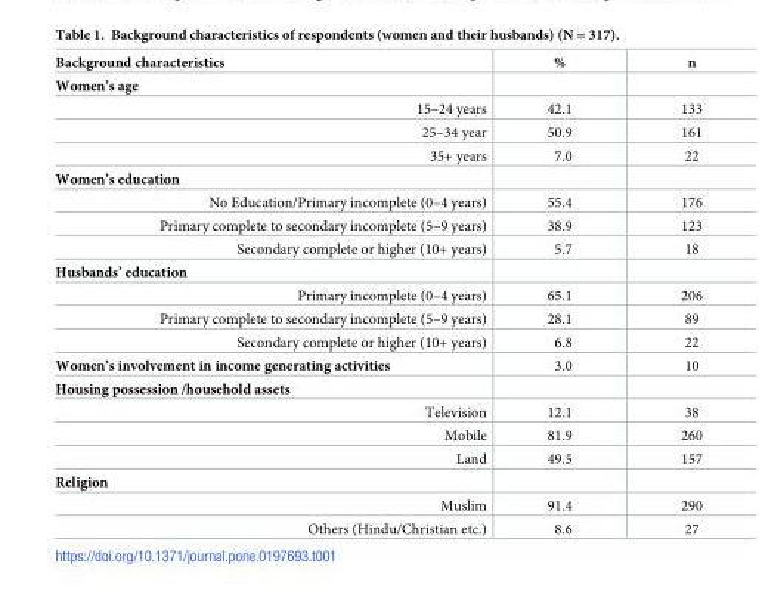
<table><thead><tr><td>Background characteristics</td><td>%</td><td>n</td></tr></thead><tbody><tr><td colspan="3">Women’s age</td></tr><tr><td>15–24 years</td><td>42.1</td><td>133</td></tr><tr><td>25–34 year</td><td>50.9</td><td>161</td></tr><tr><td>35+ years</td><td>7.0</td><td>22</td></tr><tr><td colspan="3">Women’s education</td></tr><tr><td>No Education/Primary incomplete (0–4 years)</td><td>55.4</td><td>176</td></tr><tr><td>Primary complete to secondary incomplete (5–9 years)</td><td>38.9</td><td>123</td></tr><tr><td>Secondary complete or higher (10+ years)</td><td>5.7</td><td>18</td></tr><tr><td colspan="3">Husbands’ education</td></tr><tr><td>Primary incomplete (0–4 years)</td><td>65.1</td><td>206</td></tr><tr><td>Primary complete to secondary incomplete (5–9 years)</td><td>28.1</td><td>89</td></tr><tr><td>Secondary complete or higher (10+ years)</td><td>6.8</td><td>22</td></tr><tr><td>Women’s involvement in income generating activities</td><td>3.0</td><td>10</td></tr><tr><td colspan="3">Housing possession /household assets</td></tr><tr><td>Television</td><td>12.1</td><td>38</td></tr><tr><td>Mobile</td><td>81.9</td><td>260</td></tr><tr><td>Land</td><td>49.5</td><td>157</td></tr><tr><td colspan="3">Religion</td></tr><tr><td>Muslim</td><td>91.4</td><td>290</td></tr><tr><td>Others (Hindu/Christian etc.)</td><td>8.6</td><td>27</td></tr></tbody></table>